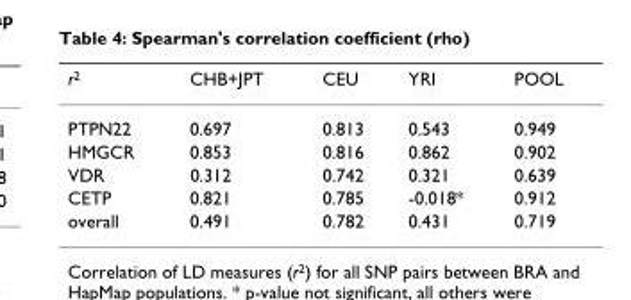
<table><thead><tr><td>r<sup>2</sup></td><td>CHB+JPT</td><td>CEU</td><td>YRI</td><td>POOL</td></tr></thead><tbody><tr><td>PTPN22</td><td>0.697</td><td>0.813</td><td>0.543</td><td>0.949</td></tr><tr><td>HMGCR</td><td>0.853</td><td>0.816</td><td>0.862</td><td>0.902</td></tr><tr><td>VDR</td><td>0.312</td><td>0.742</td><td>0.321</td><td>0.639</td></tr><tr><td>CETP</td><td>0.821</td><td>0.785</td><td>-0.018*</td><td>0.912</td></tr><tr><td>overall</td><td>0.491</td><td>0.782</td><td>0.431</td><td>0.719</td></tr></tbody></table>